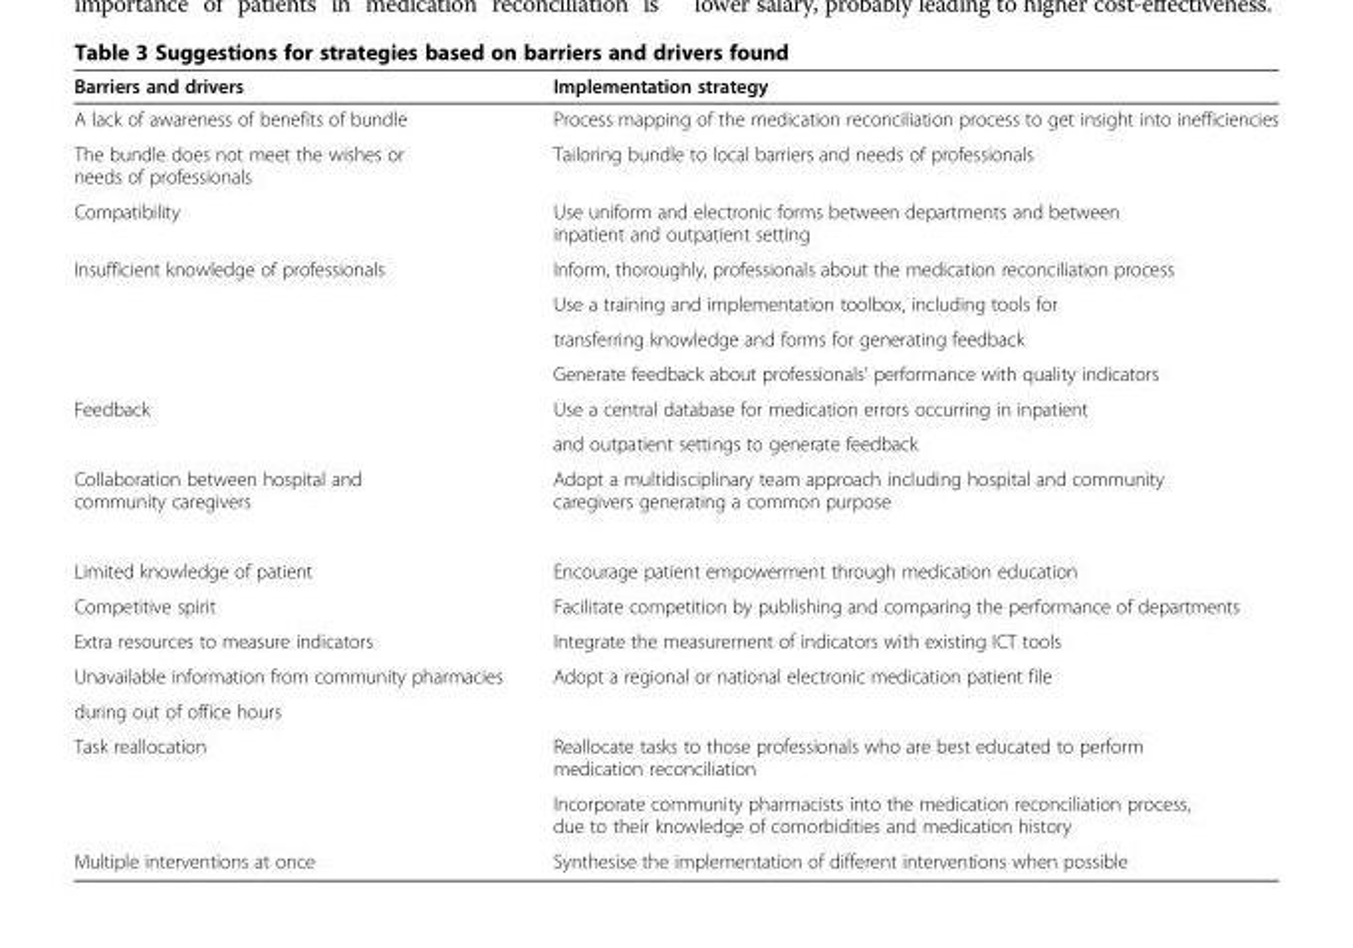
<table><thead><tr><td>Barriers and drivers</td><td>Implementation strategy</td></tr></thead><tbody><tr><td>A lack of awareness of benefits of bundle</td><td>Process mapping of the medication reconciliation process to get insight into inefficiencies</td></tr><tr><td>The bundle does not meet the wishes or needs of professionals</td><td>Tailoring bundle to local barriers and needs of professionals</td></tr><tr><td>Compatibility</td><td>Use uniform and electronic forms between departments and between inpatient and outpatient setting</td></tr><tr><td rowspan="4">Insufficient knowledge of professionals</td><td>Inform, thoroughly, professionals about the medication reconciliation process</td></tr><tr><td>Use a training and implementation toolbox, including tools for</td></tr><tr><td>transferring knowledge and forms for generating feedback</td></tr><tr><td>Generate feedback about professionals’ performance with quality indicators</td></tr><tr><td rowspan="2">Feedback</td><td>Use a central database for medication errors occurring in inpatient</td></tr><tr><td>and outpatient settings to generate feedback</td></tr><tr><td>Collaboration between hospital and community caregivers</td><td>Adopt a multidisciplinary team approach including hospital and community caregivers generating a common purpose</td></tr><tr><td>Limited knowledge of patient</td><td>Encourage patient empowerment through medication education</td></tr><tr><td>Competitive spirit</td><td>Facilitate competition by publishing and comparing the performance of departments</td></tr><tr><td>Extra resources to measure indicators</td><td>Integrate the measurement of indicators with existing ICT tools</td></tr><tr><td>Unavailable information from community pharmacies</td><td>Adopt a regional or national electronic medication patient file</td></tr><tr><td colspan="2">during out of office hours</td></tr><tr><td rowspan="2">Task reallocation</td><td>Reallocate tasks to those professionals who are best educated to perform medication reconciliation</td></tr><tr><td>Incorporate community pharmacists into the medication reconciliation process, due to their knowledge of comorbidities and medication history</td></tr><tr><td>Multiple interventions at once</td><td>Synthesise the implementation of different interventions when possible</td></tr></tbody></table>